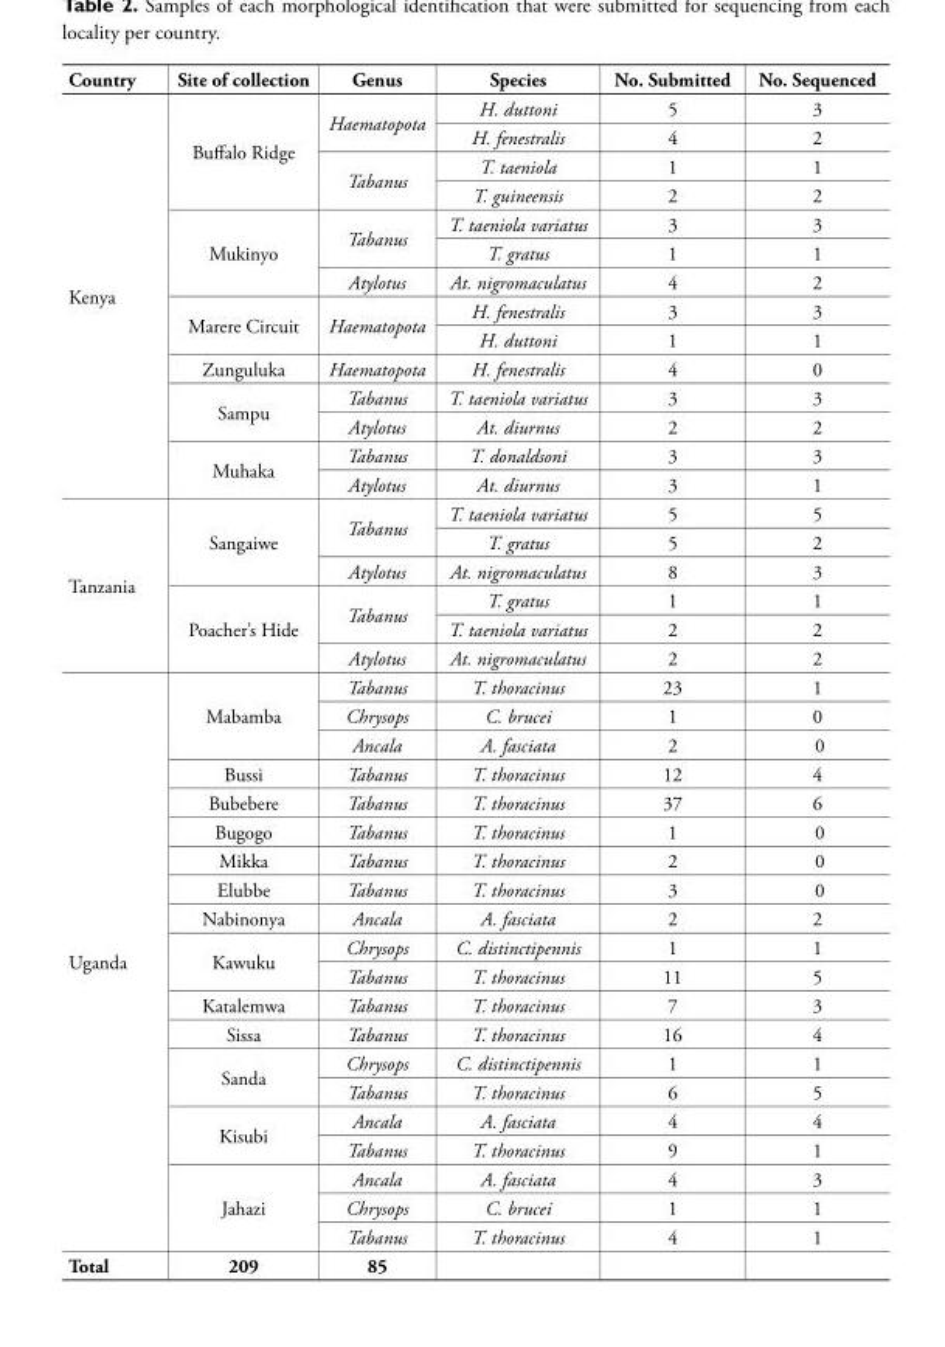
<table><thead><tr><td>Country</td><td>Site of collection</td><td>Genus</td><td>Species</td><td>No. Submitted</td><td>No. Sequenced</td></tr></thead><tbody><tr><td rowspan="14">Kenya</td><td rowspan="4">Buffalo Ridge</td><td rowspan="2">Haematopota</td><td>H. duttoni</td><td>5</td><td>3</td></tr><tr><td>H. fenestralis</td><td>4</td><td>2</td></tr><tr><td rowspan="2">Tabanus</td><td>T. taeniola</td><td>1</td><td>1</td></tr><tr><td>T. guineensis</td><td>2</td><td>2</td></tr><tr><td rowspan="3">Mukinyo</td><td rowspan="2">Tabanus</td><td>T. taeniola variatus</td><td>3</td><td>3</td></tr><tr><td>T. gratus</td><td>1</td><td>1</td></tr><tr><td>Atylotus</td><td>At. nigromaculatus</td><td>4</td><td>2</td></tr><tr><td rowspan="2">Marere Circuit</td><td rowspan="2">Haematopota</td><td>H. fenestralis</td><td>3</td><td>3</td></tr><tr><td>H. duttoni</td><td>1</td><td>1</td></tr><tr><td>Zunguluka</td><td>Haematopota</td><td>H. fenestralis</td><td>4</td><td>0</td></tr><tr><td rowspan="2">Sampu</td><td>Tabanus</td><td>T. taeniola variatus</td><td>3</td><td>3</td></tr><tr><td>Atylotus</td><td>At. diurnus</td><td>2</td><td>2</td></tr><tr><td rowspan="2">Muhaka</td><td>Tabanus</td><td>T. donaldsoni</td><td>3</td><td>3</td></tr><tr><td>Atylotus</td><td>At. diurnus</td><td>3</td><td>1</td></tr><tr><td rowspan="6">Tanzania</td><td rowspan="3">Sangaiwe</td><td rowspan="2">Tabanus</td><td>T. taeniola variatus</td><td>5</td><td>5</td></tr><tr><td>T. gratus</td><td>5</td><td>2</td></tr><tr><td>Atylotus</td><td>At. nigromaculatus</td><td>8</td><td>3</td></tr><tr><td rowspan="3">Poacher’s Hide</td><td rowspan="2">Tabanus</td><td>T. gratus</td><td>1</td><td>1</td></tr><tr><td>T. taeniola variatus</td><td>2</td><td>2</td></tr><tr><td>Atylotus</td><td>At. nigromaculatus</td><td>2</td><td>2</td></tr><tr><td rowspan="20">Uganda</td><td rowspan="3">Mabamba</td><td>Tabanus</td><td>T. thoracinus</td><td>23</td><td>1</td></tr><tr><td>Chrysops</td><td>C. brucei</td><td>1</td><td>0</td></tr><tr><td>Ancala</td><td>A. fasciata</td><td>2</td><td>0</td></tr><tr><td>Bussi</td><td>Tabanus</td><td>T. thoracinus</td><td>12</td><td>4</td></tr><tr><td>Bubebere</td><td>Tabanus</td><td>T. thoracinus</td><td>37</td><td>6</td></tr><tr><td>Bugogo</td><td>Tabanus</td><td>T. thoracinus</td><td>1</td><td>0</td></tr><tr><td>Mikka</td><td>Tabanus</td><td>T. thoracinus</td><td>2</td><td>0</td></tr><tr><td>Elubbe</td><td>Tabanus</td><td>T. thoracinus</td><td>3</td><td>0</td></tr><tr><td>Nabinonya</td><td>Ancala</td><td>A. fasciata</td><td>2</td><td>2</td></tr><tr><td rowspan="2">Kawuku</td><td>Chrysops</td><td>C. distinctipennis</td><td>1</td><td>1</td></tr><tr><td>Tabanus</td><td>T. thoracinus</td><td>11</td><td>5</td></tr><tr><td>Katalemwa</td><td>Tabanus</td><td>T. thoracinus</td><td>7</td><td>3</td></tr><tr><td>Sissa</td><td>Tabanus</td><td>T. thoracinus</td><td>16</td><td>4</td></tr><tr><td rowspan="2">Sanda</td><td>Chrysops</td><td>C. distinctipennis</td><td>1</td><td>1</td></tr><tr><td>Tabanus</td><td>T. thoracinus</td><td>6</td><td>5</td></tr><tr><td rowspan="2">Kisubi</td><td>Ancala</td><td>A. fasciata</td><td>4</td><td>4</td></tr><tr><td>Tabanus</td><td>T. thoracinus</td><td>9</td><td>1</td></tr><tr><td rowspan="3">Jahazi</td><td>Ancala</td><td>A. fasciata</td><td>4</td><td>3</td></tr><tr><td>Chrysops</td><td>C. brucei</td><td>1</td><td>1</td></tr><tr><td>Tabanus</td><td>T. thoracinus</td><td>4</td><td>1</td></tr><tr><td>Total</td><td>209</td><td>85</td><td></td><td></td><td></td></tr></tbody></table>